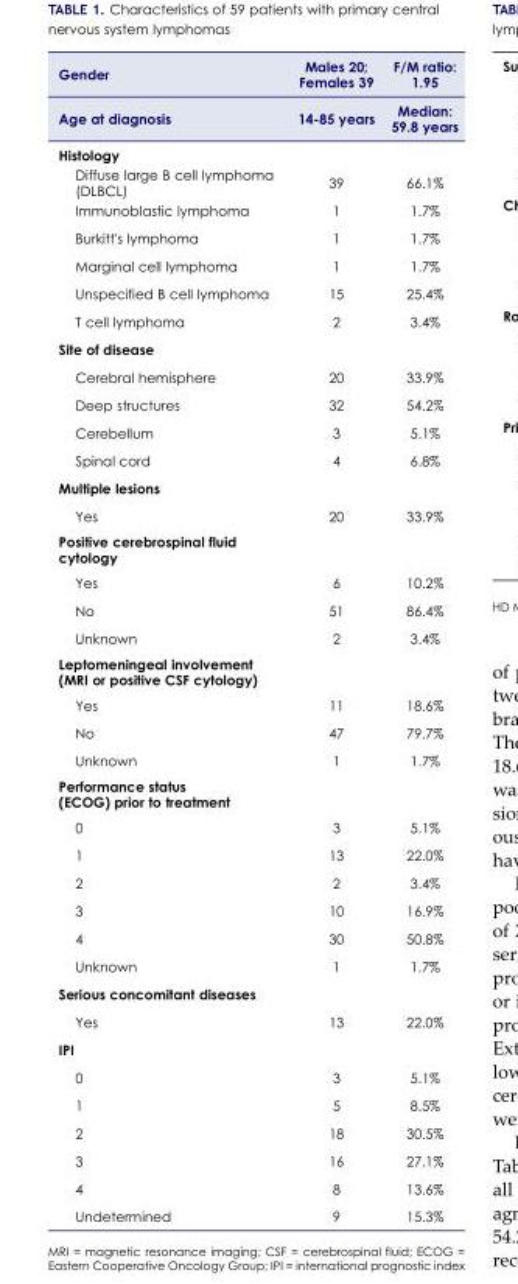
<table><thead><tr><td rowspan="2">Gender Age at diagnosis</td><td rowspan="2">Males 20; Females 39 14-85 years</td><td rowspan="2">F/M ratio: 1.95 Median: 59.8 years</td></tr><tr></tr></thead><tbody><tr><td colspan="3">Histology</td></tr><tr><td>Diffuse large B cell lymphoma (DLBCL)</td><td>39</td><td>66.1%</td></tr><tr><td>Immunoblastic lymphoma</td><td>1</td><td>1.7%</td></tr><tr><td>Burkitt′s lymphoma</td><td>1</td><td>1.7%</td></tr><tr><td>Marginal cell lymphoma</td><td>1</td><td>1.7%</td></tr><tr><td>Unspecified B cell lymphoma</td><td>15</td><td>25.4%</td></tr><tr><td>T cell lymphoma</td><td>2</td><td>3.4%</td></tr><tr><td colspan="3">Site of disease</td></tr><tr><td>Cerebral hemisphere</td><td>20</td><td>33.9%</td></tr><tr><td>Deep structures</td><td>32</td><td>54.2%</td></tr><tr><td>Cerebellum</td><td>3</td><td>5.1%</td></tr><tr><td>Spinal cord</td><td>4</td><td>6.8%</td></tr><tr><td colspan="3">Multiple lesions</td></tr><tr><td>Yes</td><td>20</td><td>33.9%</td></tr><tr><td colspan="3">Positive cerebrospinal fluid cytology</td></tr><tr><td>Yes</td><td>6</td><td>10.2%</td></tr><tr><td>No</td><td>51</td><td>86.4%</td></tr><tr><td>Unknown</td><td>2</td><td>3.4%</td></tr><tr><td colspan="3">Leptomeningeal involvement (MRI or positive CSF cytology)</td></tr><tr><td>Yes</td><td>11</td><td>18.6%</td></tr><tr><td>No</td><td>47</td><td>79.7%</td></tr><tr><td>Unknown</td><td>1</td><td>1.7%</td></tr><tr><td colspan="3">Performance status (ECOG) prior to treatment</td></tr><tr><td>0</td><td>3</td><td>5.1%</td></tr><tr><td>1</td><td>13</td><td>22.0%</td></tr><tr><td>2</td><td>2</td><td>3.4%</td></tr><tr><td>3</td><td>10</td><td>16.9%</td></tr><tr><td>4</td><td>30</td><td>50.8%</td></tr><tr><td>Unknown</td><td>1</td><td>1.7%</td></tr><tr><td colspan="3">Serious concomitant diseases</td></tr><tr><td>Yes</td><td>13</td><td>22.0%</td></tr><tr><td colspan="3">IPI</td></tr><tr><td>0</td><td>3</td><td>5.1%</td></tr><tr><td>1</td><td>5</td><td>8.5%</td></tr><tr><td>2</td><td>18</td><td>30.5%</td></tr><tr><td>3</td><td>16</td><td>27.1%</td></tr><tr><td>4</td><td>8</td><td>13.6%</td></tr><tr><td>Undetermined</td><td>9</td><td>15.3%</td></tr></tbody></table>